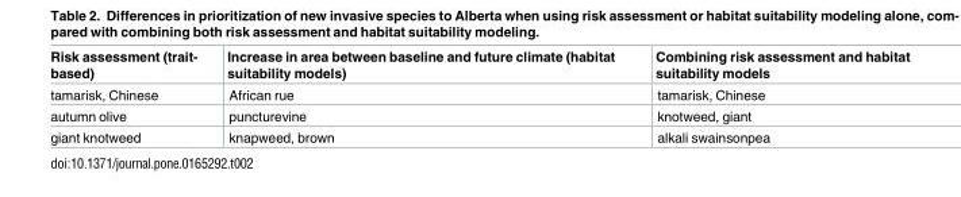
<table><thead><tr><td>Risk assessment (trait- based)</td><td>Increase in area between baseline and future climate (habitat suitability models)</td><td>Combining risk assessment and habitat suitability models</td></tr></thead><tbody><tr><td>tamarisk, Chinese</td><td>African rue</td><td>tamarisk, Chinese</td></tr><tr><td>autumn olive</td><td>puncturevine</td><td>knotweed, giant</td></tr><tr><td>giant knotweed</td><td>knapweed, brown</td><td>alkali swainsonpea</td></tr></tbody></table>